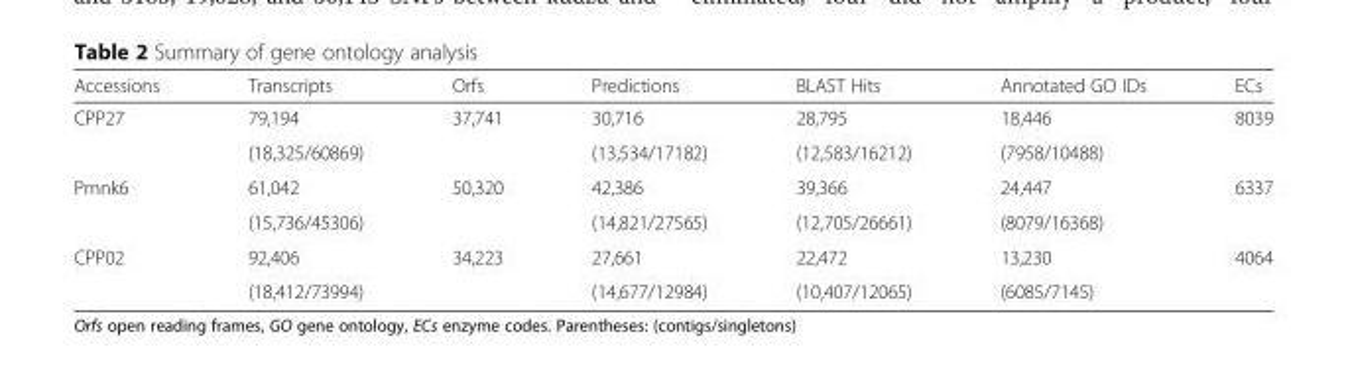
<table><thead><tr><td>Accessions</td><td>Transcripts</td><td>Orfs</td><td>Predictions</td><td>BLAST Hits</td><td>Annotated GO IDs</td><td>ECs</td></tr></thead><tbody><tr><td rowspan="2">CPP27</td><td>79,194</td><td rowspan="2">37,741</td><td>30,716</td><td>28,795</td><td>18,446</td><td rowspan="2">8039</td></tr><tr><td>(18,325/60869)</td><td>(13,534/17182)</td><td>(12,583/16212)</td><td>(7958/10488)</td></tr><tr><td rowspan="2">Pmnk6</td><td>61,042</td><td rowspan="2">50,320</td><td>42,386</td><td>39,366</td><td>24,447</td><td rowspan="2">6337</td></tr><tr><td>(15,736/45306)</td><td>(14,821/27565)</td><td>(12,705/26661)</td><td>(8079/16368)</td></tr><tr><td rowspan="2">CPP02</td><td>92,406</td><td rowspan="2">34,223</td><td>27,661</td><td>22,472</td><td>13,230</td><td rowspan="2">4064</td></tr><tr><td>(18,412/73994)</td><td>(14,677/12984)</td><td>(10,407/12065)</td><td>(6085/7145)</td></tr></tbody></table>